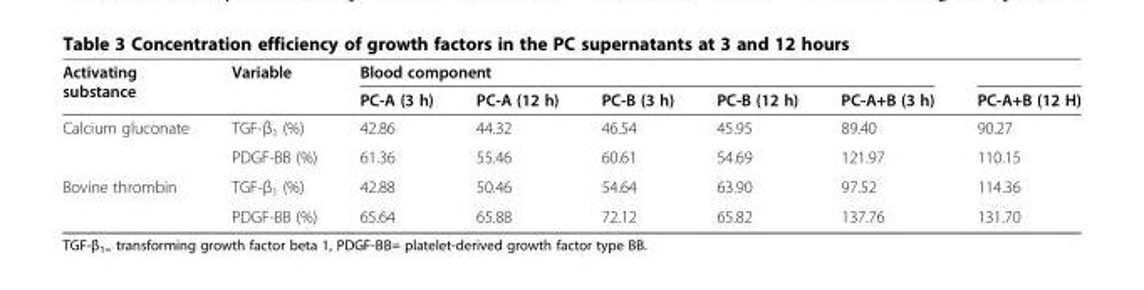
<table><thead><tr><td rowspan="2">Activating substance</td><td rowspan="2">Variable</td><td colspan="5">Blood component</td><td rowspan="2">PC-A+B (12 H)</td></tr><tr><td>PC-A (3 h)</td><td>PC-A (12 h)</td><td>PC-B (3 h)</td><td>PC-B (12 h)</td><td>PC-A+B (3 h)</td></tr></thead><tbody><tr><td rowspan="2">Calcium gluconate</td><td>TGF-β<sub>1</sub> (%)</td><td>42.86</td><td>44.32</td><td>46.54</td><td>45.95</td><td>89.40</td><td>90.27</td></tr><tr><td>PDGF-BB (%)</td><td>61.36</td><td>55.46</td><td>60.61</td><td>54.69</td><td>121.97</td><td>110.15</td></tr><tr><td rowspan="2">Bovine thrombin</td><td>TGF-β<sub>1</sub> (%)</td><td>42.88</td><td>50.46</td><td>54.64</td><td>63.90</td><td>97.52</td><td>114.36</td></tr><tr><td>PDGF-BB (%)</td><td>65.64</td><td>65.88</td><td>72.12</td><td>65.82</td><td>137.76</td><td>131.70</td></tr></tbody></table>